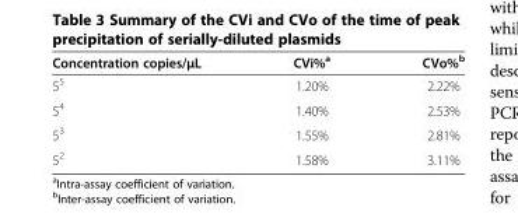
<table><thead><tr><td>Concentration copies/μL</td><td>CVi%<sup>a</sup></td><td>CVo%<sup>b</sup></td></tr></thead><tbody><tr><td>5<sup>5</sup></td><td>1.20%</td><td>2.22%</td></tr><tr><td>5<sup>4</sup></td><td>1.40%</td><td>2.53%</td></tr><tr><td>5<sup>3</sup></td><td>1.55%</td><td>2.81%</td></tr><tr><td>5<sup>2</sup></td><td>1.58%</td><td>3.11%</td></tr></tbody></table>